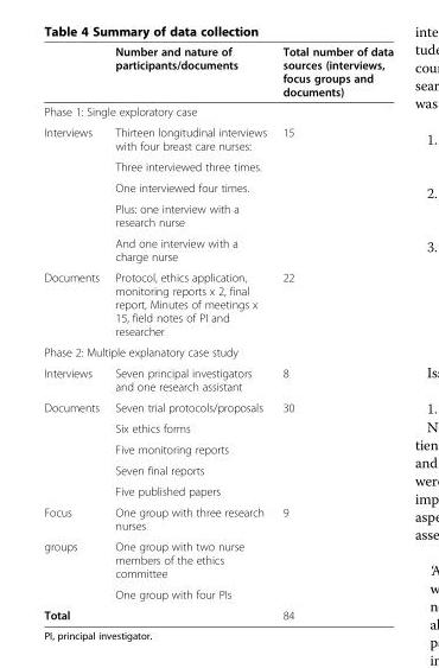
<table><thead><tr><td></td><td>Number and nature of participants/documents</td><td>Total number of data sources (interviews, focus groups and documents)</td></tr></thead><tbody><tr><td colspan="3">Phase 1: Single exploratory case</td></tr><tr><td rowspan="5">Interviews</td><td>Thirteen longitudinal interviews with four breast care nurses:</td><td>15</td></tr><tr><td>Three interviewed three times.</td><td></td></tr><tr><td>One interviewed four times.</td><td></td></tr><tr><td>Plus: one interview with a research nurse</td><td></td></tr><tr><td>And one interview with a charge nurse</td><td></td></tr><tr><td>Documents</td><td>Protocol, ethics application, monitoring reports x 2, final report, Minutes of meetings x 15, field notes of PI and researcher</td><td>22</td></tr><tr><td colspan="3">Phase 2: Multiple explanatory case study</td></tr><tr><td>Interviews</td><td>Seven principal investigators and one research assistant</td><td>8</td></tr><tr><td rowspan="5">Documents</td><td>Seven trial protocols/proposals</td><td>30</td></tr><tr><td>Six ethics forms</td><td></td></tr><tr><td>Five monitoring reports</td><td></td></tr><tr><td>Seven final reports</td><td></td></tr><tr><td>Five published papers</td><td></td></tr><tr><td>Focus</td><td>One group with three research nurses</td><td>9</td></tr><tr><td rowspan="2">groups</td><td>One group with two nurse members of the ethics committee</td><td></td></tr><tr><td>One group with four PIs</td><td></td></tr><tr><td>Total</td><td></td><td>84</td></tr></tbody></table>